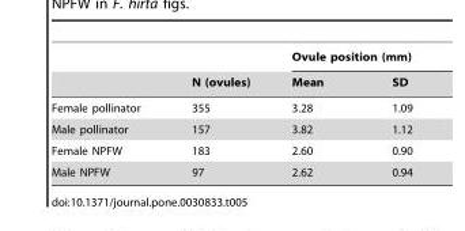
<table><thead><tr><td rowspan="2"></td><td rowspan="2">N (ovules)</td><td colspan="2">Ovule position (mm)</td></tr><tr><td>Mean</td><td>SD</td></tr></thead><tbody><tr><td>Female pollinator</td><td>355</td><td>3.28</td><td>1.09</td></tr><tr><td>Male pollinator</td><td>157</td><td>3.82</td><td>1.12</td></tr><tr><td>Female NPFW</td><td>183</td><td>2.60</td><td>0.90</td></tr><tr><td>Male NPFW</td><td>97</td><td>2.62</td><td>0.94</td></tr></tbody></table>